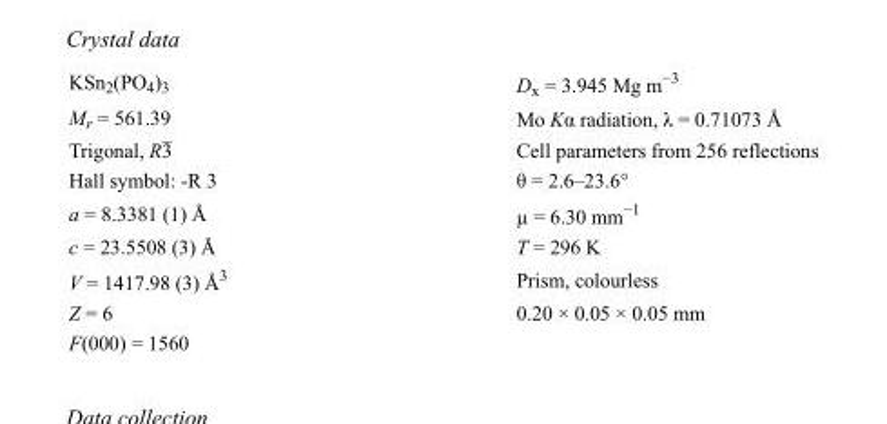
<table><tbody><tr><td>KSn<sub>2</sub>(PO<sub>4</sub>)<sub>3</sub></td><td>D<sub>x</sub> = 3.945 Mg m<sup>−3</sup></td></tr><tr><td>M<sub>r</sub> = 561.39</td><td>Mo Kα radiation, λ = 0.71073 Å</td></tr><tr><td>Trigonal, R3</td><td>Cell parameters from 256 reflections</td></tr><tr><td>Hall symbol: -R 3</td><td>θ = 2.6–23.6°</td></tr><tr><td>a = 8.3381 (1) Å</td><td>µ = 6.30 mm<sup>−1</sup></td></tr><tr><td>c = 23.5508 (3) Å</td><td>T = 296 K</td></tr><tr><td>V = 1417.98 (3) Å<sup>3</sup></td><td>Prism, colourless</td></tr><tr><td>Z = 6</td><td>0.20 × 0.05 × 0.05 mm</td></tr><tr><td>F(000) = 1560</td><td></td></tr></tbody></table>